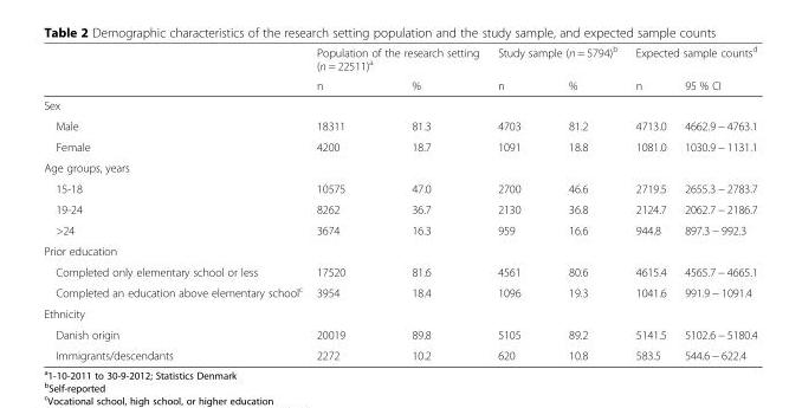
<table><thead><tr><td rowspan="2"></td><td colspan="2">Population of the research setting (n = 22511)<sup>a</sup></td><td colspan="2">Study sample (n = 5794)<sup>b</sup></td><td colspan="2">Expected sample counts<sup>d</sup></td></tr><tr><td>n</td><td>%</td><td>n</td><td>%</td><td>n</td><td>95 % CI</td></tr></thead><tbody><tr><td colspan="7">Sex</td></tr><tr><td>Male</td><td>18311</td><td>81.3</td><td>4703</td><td>81.2</td><td>4713.0</td><td>4662.9 − 4763.1</td></tr><tr><td>Female</td><td>4200</td><td>18.7</td><td>1091</td><td>18.8</td><td>1081.0</td><td>1030.9 − 1131.1</td></tr><tr><td colspan="7">Age groups, years</td></tr><tr><td>15-18</td><td>10575</td><td>47.0</td><td>2700</td><td>46.6</td><td>2719.5</td><td>2655.3 − 2783.7</td></tr><tr><td>19-24</td><td>8262</td><td>36.7</td><td>2130</td><td>36.8</td><td>2124.7</td><td>2062.7 − 2186.7</td></tr><tr><td>&gt;24</td><td>3674</td><td>16.3</td><td>959</td><td>16.6</td><td>944.8</td><td>897.3 − 992.3</td></tr><tr><td colspan="7">Prior education</td></tr><tr><td>Completed only elementary school or less</td><td>17520</td><td>81.6</td><td>4561</td><td>80.6</td><td>4615.4</td><td>4565.7 − 4665.1</td></tr><tr><td>Completed an education above elementary school<sup>c</sup></td><td>3954</td><td>18.4</td><td>1096</td><td>19.3</td><td>1041.6</td><td>991.9 − 1091.4</td></tr><tr><td colspan="7">Ethnicity</td></tr><tr><td>Danish origin</td><td>20019</td><td>89.8</td><td>5105</td><td>89.2</td><td>5141.5</td><td>5102.6 − 5180.4</td></tr><tr><td>Immigrants/descendants</td><td>2272</td><td>10.2</td><td>620</td><td>10.8</td><td>583.5</td><td>544.6 − 622.4</td></tr></tbody></table>